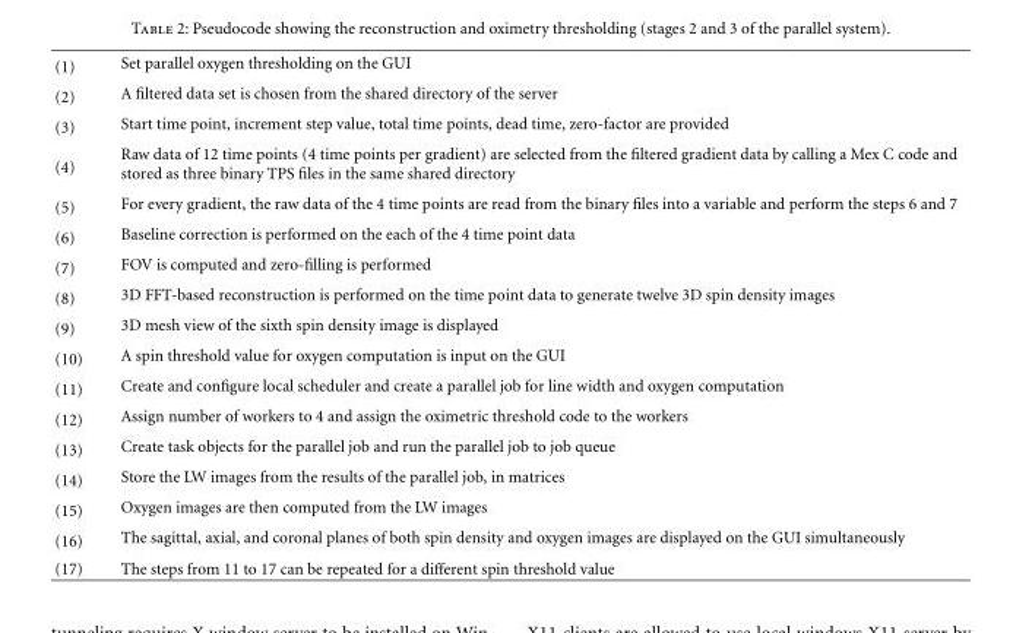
<table><tbody><tr><td>(1)</td><td>Set parallel oxygen thresholding on the GUI</td></tr><tr><td>(2)</td><td>A filtered data set is chosen from the shared directory of the server</td></tr><tr><td>(3)</td><td>Start time point, increment step value, total time points, dead time, zero-factor are provided</td></tr><tr><td>(4)</td><td>Raw data of 12 time points (4 time points per gradient) are selected from the filtered gradient data by calling a Mex C code and stored as three binary TPS files in the same shared directory</td></tr><tr><td>(5)</td><td>For every gradient, the raw data of the 4 time points are read from the binary files into a variable and perform the steps 6 and 7</td></tr><tr><td>(6)</td><td>Baseline correction is performed on the each of the 4 time point data</td></tr><tr><td>(7)</td><td>FOV is computed and zero-filling is performed</td></tr><tr><td>(8)</td><td>3D FFT-based reconstruction is performed on the time point data to generate twelve 3D spin density images</td></tr><tr><td>(9)</td><td>3D mesh view of the sixth spin density image is displayed</td></tr><tr><td>(10)</td><td>A spin threshold value for oxygen computation is input on the GUI</td></tr><tr><td>(11)</td><td>Create and configure local scheduler and create a parallel job for line width and oxygen computation</td></tr><tr><td>(12)</td><td>Assign number of workers to 4 and assign the oximetric threshold code to the workers</td></tr><tr><td>(13)</td><td>Create task objects for the parallel job and run the parallel job to job queue</td></tr><tr><td>(14)</td><td>Store the LW images from the results of the parallel job, in matrices</td></tr><tr><td>(15)</td><td>Oxygen images are then computed from the LW images</td></tr><tr><td>(16)</td><td>The sagittal, axial, and coronal planes of both spin density and oxygen images are displayed on the GUI simultaneously</td></tr><tr><td>(17)</td><td>The steps from 11 to 17 can be repeated for a different spin threshold value</td></tr></tbody></table>